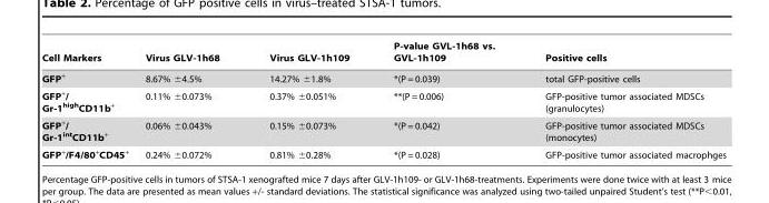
<table><thead><tr><td>Cell Markers</td><td>Virus GLV-1h68</td><td>Virus GLV-1h109</td><td>P-value GVL-1h68 vs. GVL-1h109</td><td>Positive cells</td></tr></thead><tbody><tr><td>GFP<sup>+</sup></td><td>8.67% ±4.5%</td><td>14.27% ±1.8%</td><td>*(P = 0.039)</td><td>total GFP-positive cells</td></tr><tr><td>GFP<sup>+</sup>/ Gr-1<sup>high</sup>CD11b<sup>+</sup></td><td>0.11% ±0.073%</td><td>0.37% ±0.051%</td><td>**(P = 0.006)</td><td>GFP-positive tumor associated MDSCs (granulocytes)</td></tr><tr><td>GFP<sup>+</sup>/ Gr-1<sup>int</sup>CD11b<sup>+</sup></td><td>0.06% ±0.043%</td><td>0.15% ±0.073%</td><td>*(P = 0.042)</td><td>GFP-positive tumor associated MDSCs (monocytes)</td></tr><tr><td>GFP<sup>+</sup>/F4/80<sup>+</sup>CD45<sup>+</sup></td><td>0.24% ±0.072%</td><td>0.81% ±0.28%</td><td>*(P = 0.028)</td><td>GFP-positive tumor associated macrophges</td></tr></tbody></table>